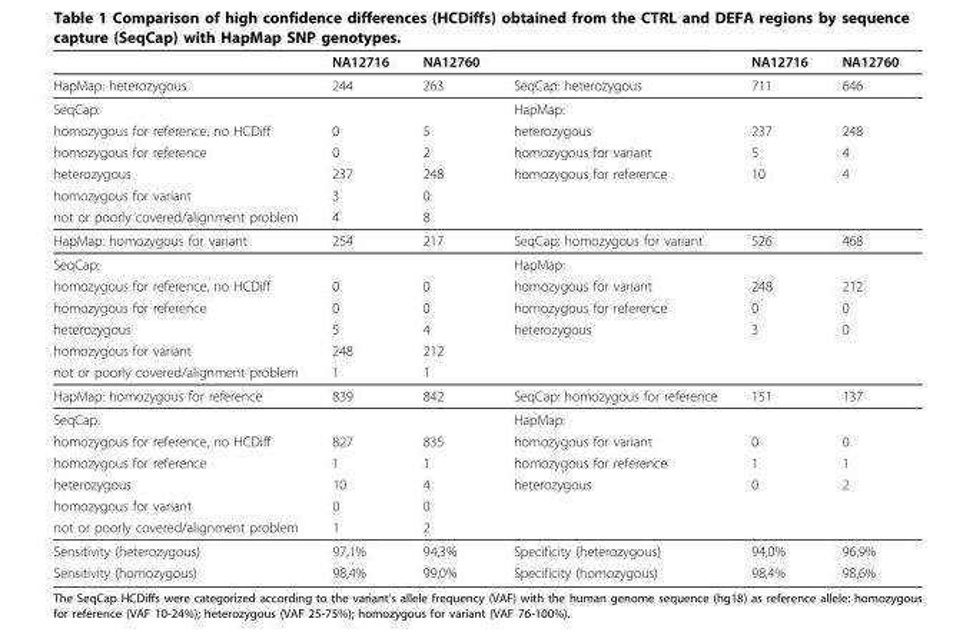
<table><thead><tr><td></td><td>NA12716</td><td>NA12760</td><td></td><td>NA12716</td><td>NA12760</td></tr></thead><tbody><tr><td>HapMap: heterozygous</td><td>244</td><td>263</td><td>SeqCap: heterozygous</td><td>711</td><td>646</td></tr><tr><td>SeqCap:</td><td></td><td></td><td>HapMap:</td><td></td><td></td></tr><tr><td>homozygous for reference, no HCDiff</td><td>0</td><td>5</td><td>heterozygous</td><td>237</td><td>248</td></tr><tr><td>homozygous for reference</td><td>0</td><td>2</td><td>homozygous for variant</td><td>5</td><td>4</td></tr><tr><td>heterozygous</td><td>237</td><td>248</td><td>homozygous for reference</td><td>10</td><td>4</td></tr><tr><td>homozygous for variant</td><td>3</td><td>0</td><td></td><td></td><td></td></tr><tr><td>not or poorly covered/alignment problem</td><td>4</td><td>8</td><td></td><td></td><td></td></tr><tr><td>HapMap: homozygous for variant</td><td>254</td><td>217</td><td>SeqCap: homozygous for variant</td><td>526</td><td>468</td></tr><tr><td>SeqCap:</td><td></td><td></td><td>HapMap:</td><td></td><td></td></tr><tr><td>homozygous for reference, no HCDiff</td><td>0</td><td>0</td><td>homozygous for variant</td><td>248</td><td>212</td></tr><tr><td>homozygous for reference</td><td>0</td><td>0</td><td>homozygous for reference</td><td>0</td><td>0</td></tr><tr><td>heterozygous</td><td>5</td><td>4</td><td>heterozygous</td><td>3</td><td>0</td></tr><tr><td>homozygous for variant</td><td>248</td><td>212</td><td></td><td></td><td></td></tr><tr><td>not or poorly covered/alignment problem</td><td>1</td><td>1</td><td></td><td></td><td></td></tr><tr><td>HapMap: homozygous for reference</td><td>839</td><td>842</td><td>SeqCap: homozygous for reference</td><td>151</td><td>137</td></tr><tr><td>SeqCap:</td><td></td><td></td><td>HapMap:</td><td></td><td></td></tr><tr><td>homozygous for reference, no HCDiff</td><td>827</td><td>835</td><td>homozygous for variant</td><td>0</td><td>0</td></tr><tr><td>homozygous for reference</td><td>1</td><td>1</td><td>homozygous for reference</td><td>1</td><td>1</td></tr><tr><td>heterozygous</td><td>10</td><td>4</td><td>heterozygous</td><td>0</td><td>2</td></tr><tr><td>homozygous for variant</td><td>0</td><td>0</td><td></td><td></td><td></td></tr><tr><td>not or poorly covered/alignment problem</td><td>1</td><td>2</td><td></td><td></td><td></td></tr><tr><td>Sensitivity (heterozygous)</td><td>97,1%</td><td>94,3%</td><td>Specificity (heterozygous)</td><td>94,0%</td><td>96,9%</td></tr><tr><td>Sensitivity (homozygous)</td><td>98,4%</td><td>99,0%</td><td>Specificity (homozygous)</td><td>98,4%</td><td>98,6%</td></tr></tbody></table>